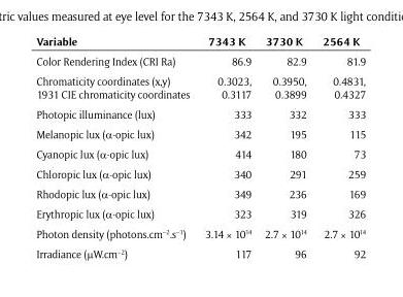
<table><thead><tr><td>Variable</td><td>7343 K</td><td>3730 K</td><td>2564 K</td></tr></thead><tbody><tr><td>Color Rendering Index (CRI Ra)</td><td>86.9</td><td>82.9</td><td>81.9</td></tr><tr><td>Chromaticity coordinates (x,y) 1931 CIE chromaticity coordinates</td><td>0.3023, 0.3117</td><td>0.3950, 0.3899</td><td>0.4831, 0.4327</td></tr><tr><td>Photopic illuminance (lux)</td><td>333</td><td>332</td><td>333</td></tr><tr><td>Melanopic lux (α-opic lux)</td><td>342</td><td>195</td><td>115</td></tr><tr><td>Cyanopic lux (α-opic lux)</td><td>414</td><td>180</td><td>73</td></tr><tr><td>Chloropic lux (α-opic lux)</td><td>340</td><td>291</td><td>259</td></tr><tr><td>Rhodopic lux (α-opic lux)</td><td>349</td><td>236</td><td>169</td></tr><tr><td>Erythropic lux (α-opic lux)</td><td>323</td><td>319</td><td>326</td></tr><tr><td>Photon density (photons.cm<sup>–2</sup>.s<sup>–1</sup>)</td><td>3.14 × 10<sup>14</sup></td><td>2.7 × 10<sup>14</sup></td><td>2.7 × 10<sup>14</sup></td></tr><tr><td>Irradiance (µW.cm<sup>–2</sup>)</td><td>117</td><td>96</td><td>92</td></tr></tbody></table>